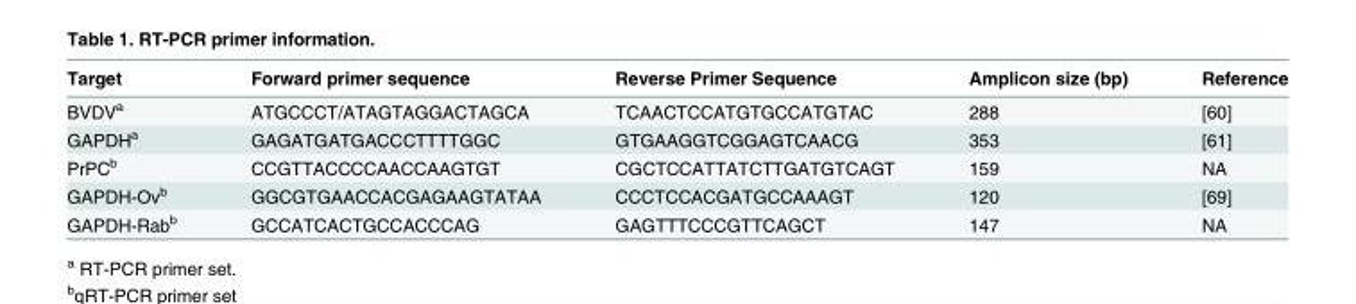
<table><thead><tr><td>Target</td><td>Forward primer sequence</td><td>Reverse Primer Sequence</td><td>Amplicon size (bp)</td><td>Reference</td></tr></thead><tbody><tr><td>BVDV<sup>a</sup></td><td>ATGCCCT/ATAGTAGGACTAGCA</td><td>TCAACTCCATGTGCCATGTAC</td><td>288</td><td>[60]</td></tr><tr><td>GAPDH<sup>a</sup></td><td>GAGATGATGACCCTTTTGGC</td><td>GTGAAGGTCGGAGTCAACG</td><td>353</td><td>[61]</td></tr><tr><td>PrPC<sup>b</sup></td><td>CCGTTACCCCAACCAAGTGT</td><td>CGCTCCATTATCTTGATGTCAGT</td><td>159</td><td>NA</td></tr><tr><td>GAPDH-Ov<sup>b</sup></td><td>GGCGTGAACCACGAGAAGTATAA</td><td>CCCTCCACGATGCCAAAGT</td><td>120</td><td>[69]</td></tr><tr><td>GAPDH-Rab<sup>b</sup></td><td>GCCATCACTGCCACCCAG</td><td>GAGTTTCCCGTTCAGCT</td><td>147</td><td>NA</td></tr></tbody></table>